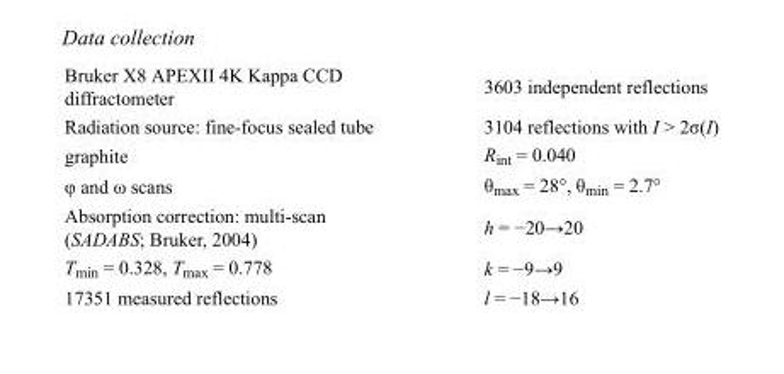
<table><tbody><tr><td>Bruker X8 APEXII 4K Kappa CCD diffractometer</td><td>3603 independent reflections</td></tr><tr><td>Radiation source: fine-focus sealed tube</td><td>3104 reflections with I &gt; 2σ(I)</td></tr><tr><td>graphite</td><td>R<sub>int</sub> = 0.040</td></tr><tr><td>φ and ω scans</td><td>θ<sub>max</sub> = 28°, θ<sub>min</sub> = 2.7°</td></tr><tr><td>Absorption correction: multi-scan (SADABS; Bruker, 2004)</td><td>h = −20→20</td></tr><tr><td>T<sub>min</sub> = 0.328, T<sub>max</sub> = 0.778</td><td>k = −9→9</td></tr><tr><td>17351 measured reflections</td><td>l = −18→16</td></tr></tbody></table>